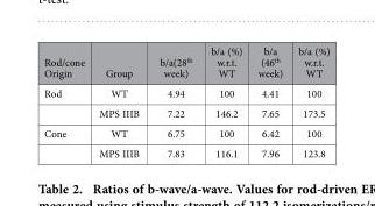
<table><thead><tr><td>Rod/cone Origin</td><td>Group</td><td>b/a(28<sup>th</sup> week)</td><td>b/a (%) w.r.t. WT</td><td>b/a (46<sup>th</sup> week)</td><td>b/a (%) w.r.t. WT</td></tr></thead><tbody><tr><td rowspan="2">Rod</td><td>WT</td><td>4.94</td><td>100</td><td>4.41</td><td>100</td></tr><tr><td>MPS IIIB</td><td>7.22</td><td>146.2</td><td>7.65</td><td>173.5</td></tr><tr><td rowspan="2">Cone</td><td>WT</td><td>6.75</td><td>100</td><td>6.42</td><td>100</td></tr><tr><td>MPS IIIB</td><td>7.83</td><td>116.1</td><td>7.96</td><td>123.8</td></tr></tbody></table>